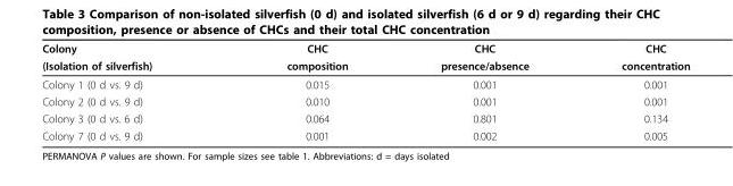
<table><thead><tr><td rowspan="2">Colony (Isolation of silverfish)</td><td rowspan="2">CHC composition</td><td rowspan="2">CHC presence/absence</td><td rowspan="2">CHC concentration</td></tr><tr></tr></thead><tbody><tr><td>Colony 1 (0 d vs. 9 d)</td><td>0.015</td><td>0.001</td><td>0.001</td></tr><tr><td>Colony 2 (0 d vs. 9 d)</td><td>0.010</td><td>0.001</td><td>0.001</td></tr><tr><td>Colony 3 (0 d vs. 6 d)</td><td>0.064</td><td>0.801</td><td>0.134</td></tr><tr><td>Colony 7 (0 d vs. 9 d)</td><td>0.001</td><td>0.002</td><td>0.005</td></tr></tbody></table>